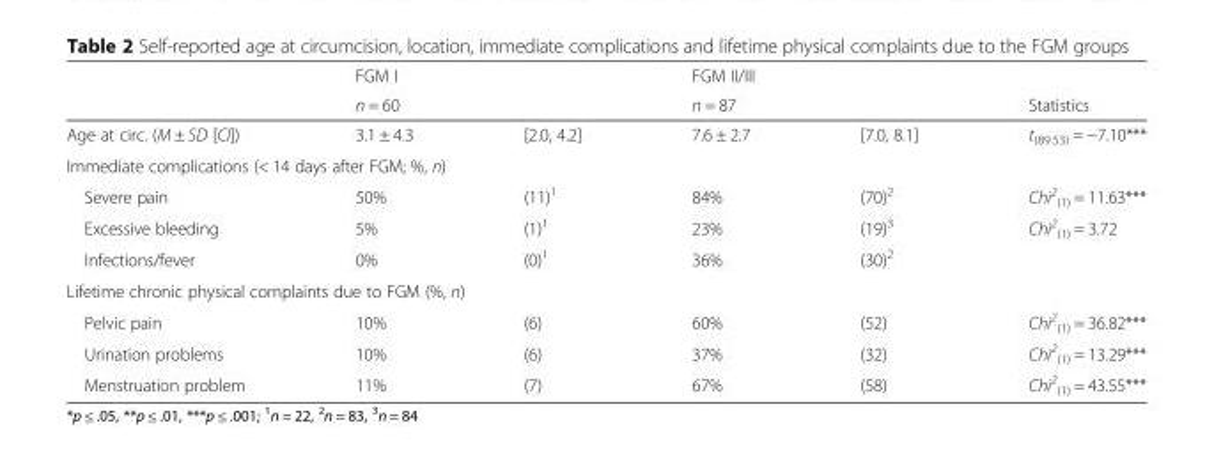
<table><thead><tr><td rowspan="3">Age at circ. (M ± SD [CI])</td><td rowspan="2" colspan="2">FGM I n = 60</td><td rowspan="2" colspan="2">FGM II/III n = 87</td><td rowspan="3">Statistics t<sub>(89.53)</sub> = −7.10***</td></tr><tr></tr><tr><td>3.1 ± 4.3</td><td>[2.0, 4.2]</td><td>7.6 ± 2.7</td><td>[7.0, 8.1]</td></tr></thead><tbody><tr><td colspan="6">Immediate complications (&lt; 14 days after FGM; %, n)</td></tr><tr><td>Severe pain</td><td>50%</td><td>(11)<sup>1</sup></td><td>84%</td><td>(70)<sup>2</sup></td><td>Chi<sup>2</sup> <sub>(1)</sub> = 11.63***</td></tr><tr><td>Excessive bleeding</td><td>5%</td><td>(1)<sup>1</sup></td><td>23%</td><td>(19)<sup>3</sup></td><td>Chi<sup>2</sup> <sub>(1)</sub> = 3.72</td></tr><tr><td>Infections/fever</td><td>0%</td><td>(0)<sup>1</sup></td><td>36%</td><td>(30)<sup>2</sup></td><td></td></tr><tr><td colspan="6">Lifetime chronic physical complaints due to FGM (%, n)</td></tr><tr><td>Pelvic pain</td><td>10%</td><td>(6)</td><td>60%</td><td>(52)</td><td>Chi<sup>2</sup> <sub>(1)</sub> = 36.82***</td></tr><tr><td>Urination problems</td><td>10%</td><td>(6)</td><td>37%</td><td>(32)</td><td>Chi<sup>2</sup> <sub>(1)</sub> = 13.29***</td></tr><tr><td>Menstruation problem</td><td>11%</td><td>(7)</td><td>67%</td><td>(58)</td><td>Chi<sup>2</sup> <sub>(1)</sub> = 43.55***</td></tr></tbody></table>